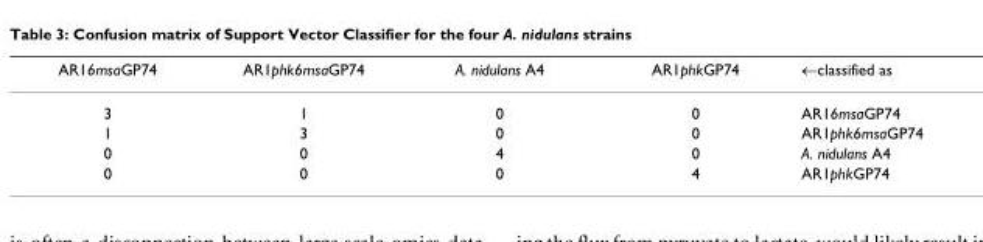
<table><thead><tr><td>AR16msaGP74</td><td>AR1phk6msaGP74</td><td>A. nidulans A4</td><td>AR1phkGP74</td><td>←classified as</td></tr></thead><tbody><tr><td>3</td><td>1</td><td>0</td><td>0</td><td>AR16msaGP74</td></tr><tr><td>1</td><td>3</td><td>0</td><td>0</td><td>AR1phk6msaGP74</td></tr><tr><td>0</td><td>0</td><td>4</td><td>0</td><td>A. nidulans A4</td></tr><tr><td>0</td><td>0</td><td>0</td><td>4</td><td>AR1phkGP74</td></tr></tbody></table>